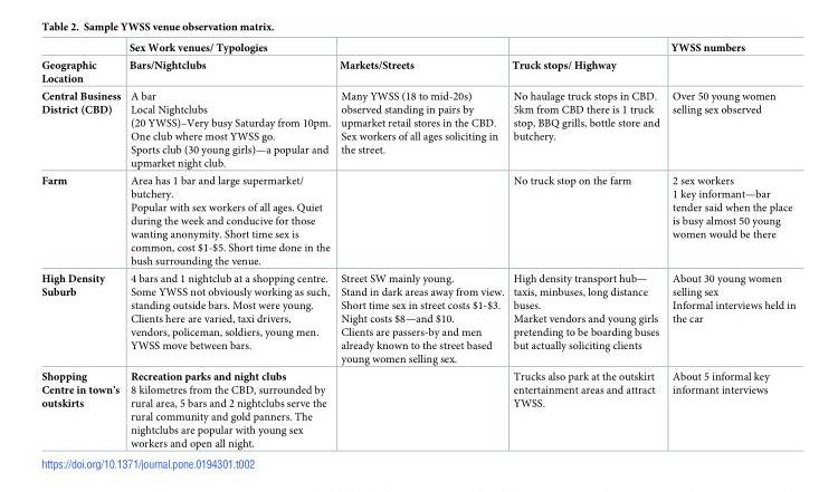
<table><thead><tr><td rowspan="2">Geographic Location</td><td rowspan="2">Sex Work venues/ Typologies Bars/Nightclubs</td><td rowspan="2">Markets/Streets</td><td rowspan="2">Truck stops/ Highway</td><td rowspan="2">YWSS numbers</td></tr><tr></tr></thead><tbody><tr><td>Central Business District (CBD)</td><td>A bar Local Nightclubs (20 YWSS)–Very busy Saturday from 10pm. One club where most YWSS go. Sports club (30 young girls)—a popular and upmarket night club.</td><td>Many YWSS (18 to mid-20s) observed standing in pairs by upmarket retail stores in the CBD. Sex workers of all ages soliciting in the street.</td><td>No haulage truck stops in CBD. 5km from CBD there is 1 truck stop, BBQ grills, bottle store and butchery.</td><td>Over 50 young women selling sex observed</td></tr><tr><td>Farm</td><td>Area has 1 bar and large supermarket/ butchery. Popular with sex workers of all ages. Quiet during the week and conducive for those wanting anonymity. Short time sex is common, cost $1-$5. Short time done in the bush surrounding the venue.</td><td></td><td>No truck stop on the farm</td><td>2 sex workers 1 key informant—bar tender said when the place is busy almost 50 young women would be there</td></tr><tr><td>High Density Suburb</td><td>4 bars and 1 nightclub at a shopping centre. Some YWSS not obviously working as such, standing outside bars. Most were young. Clients here are varied, taxi drivers, vendors, policeman, soldiers, young men. YWSS move between bars.</td><td>Street SW mainly young. Stand in dark areas away from view. Short time sex in street costs $1-$3. Night costs $8—and $10. Clients are passers-by and men already known to the street based young women selling sex.</td><td>High density transport hub— taxis, minbuses, long distance buses. Market vendors and young girls pretending to be boarding buses but actually soliciting clients</td><td>About 30 young women selling sex Informal interviews held in the car</td></tr><tr><td>Shopping Centre in town’s outskirts</td><td>Recreation parks and night clubs 8 kilometres from the CBD, surrounded by rural area, 5 bars and 2 nightclubs serve the rural community and gold panners. The nightclubs are popular with young sex workers and open all night.</td><td></td><td>Trucks also park at the outskirt entertainment areas and attract YWSS.</td><td>About 5 informal key informant interviews</td></tr></tbody></table>